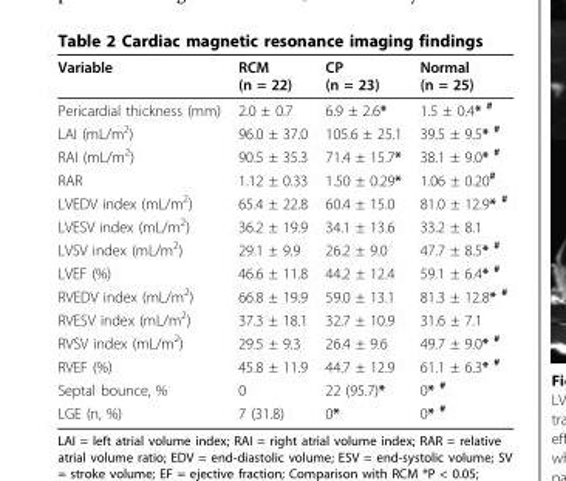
<table><thead><tr><td>Variable</td><td>RCM (n = 22)</td><td>CP (n = 23)</td><td>Normal (n = 25)</td></tr></thead><tbody><tr><td>Pericardial thickness (mm)</td><td>2.0 ± 0.7</td><td>6.9 ± 2.6*</td><td>1.5 ± 0.4* <sup>#</sup></td></tr><tr><td>LAI (mL/m<sup>2</sup>)</td><td>96.0 ± 37.0</td><td>105.6 ± 25.1</td><td>39.5 ± 9.5* <sup>#</sup></td></tr><tr><td>RAI (mL/m<sup>2</sup>)</td><td>90.5 ± 35.3</td><td>71.4 ± 15.7*</td><td>38.1 ± 9.0* <sup>#</sup></td></tr><tr><td>RAR</td><td>1.12 ± 0.33</td><td>1.50 ± 0.29*</td><td>1.06 ± 0.20<sup>#</sup></td></tr><tr><td>LVEDV index (mL/m<sup>2</sup>)</td><td>65.4 ± 22.8</td><td>60.4 ± 15.0</td><td>81.0 ± 12.9* <sup>#</sup></td></tr><tr><td>LVESV index (mL/m<sup>2</sup>)</td><td>36.2 ± 19.9</td><td>34.1 ± 13.6</td><td>33.2 ± 8.1</td></tr><tr><td>LVSV index (mL/m<sup>2</sup>)</td><td>29.1 ± 9.9</td><td>26.2 ± 9.0</td><td>47.7 ± 8.5* <sup>#</sup></td></tr><tr><td>LVEF (%)</td><td>46.6 ± 11.8</td><td>44.2 ± 12.4</td><td>59.1 ± 6.4* <sup>#</sup></td></tr><tr><td>RVEDV index (mL/m<sup>2</sup>)</td><td>66.8 ± 19.9</td><td>59.0 ± 13.1</td><td>81.3 ± 12.8* <sup>#</sup></td></tr><tr><td>RVESV index (mL/m<sup>2</sup>)</td><td>37.3 ± 18.1</td><td>32.7 ± 10.9</td><td>31.6 ± 7.1</td></tr><tr><td>RVSV index (mL/m<sup>2</sup>)</td><td>29.5 ± 9.3</td><td>26.4 ± 9.6</td><td>49.7 ± 9.0* <sup>#</sup></td></tr><tr><td>RVEF (%)</td><td>45.8 ± 11.9</td><td>44.7 ± 12.9</td><td>61.1 ± 6.3* <sup>#</sup></td></tr><tr><td>Septal bounce, %</td><td>0</td><td>22 (95.7)*</td><td>0* <sup>#</sup></td></tr><tr><td>LGE (n, %)</td><td>7 (31.8)</td><td>0*</td><td>0* <sup>#</sup></td></tr></tbody></table>